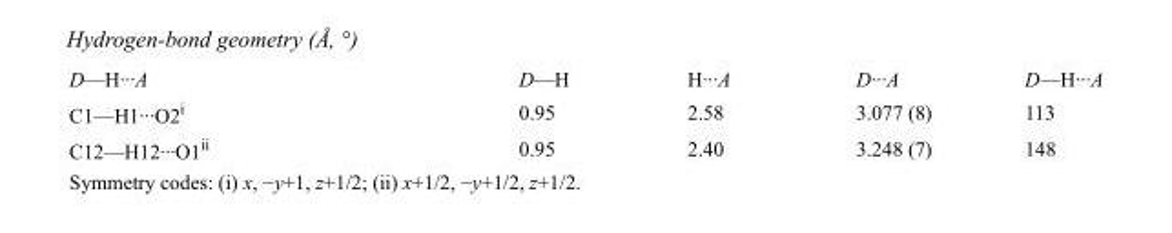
<table><tbody><tr><td>D—H···A</td><td>D—H</td><td>H···A</td><td>D···A</td><td>D—H···A</td></tr><tr><td>C1—H1···O2<sup>i</sup></td><td>0.95</td><td>2.58</td><td>3.077 (8)</td><td>113</td></tr><tr><td>C12—H12···O1<sup>ii</sup></td><td>0.95</td><td>2.40</td><td>3.248 (7)</td><td>148</td></tr></tbody></table>